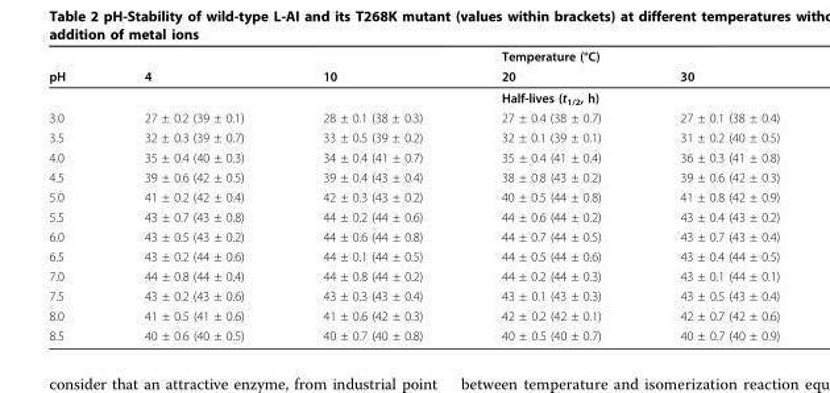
<table><thead><tr><td rowspan="2">pH</td><td rowspan="2">4</td><td rowspan="2">10</td><td rowspan="2">Temperature (°C) 20</td><td rowspan="2">30</td></tr><tr></tr></thead><tbody><tr><td></td><td></td><td></td><td>Half-lives (t<sub>1/2</sub>, h)</td><td></td></tr><tr><td>3.0</td><td>27 ± 0.2 (39 ± 0.1)</td><td>28 ± 0.1 (38 ± 0.3)</td><td>27 ± 0.4 (38 ± 0.7)</td><td>27 ± 0.1 (38 ± 0.4)</td></tr><tr><td>3.5</td><td>32 ± 0.3 (39 ± 0.7)</td><td>33 ± 0.5 (39 ± 0.2)</td><td>32 ± 0.1 (39 ± 0.1)</td><td>31 ± 0.2 (40 ± 0.5)</td></tr><tr><td>4.0</td><td>35 ± 0.4 (40 ± 0.3)</td><td>34 ± 0.4 (41 ± 0.7)</td><td>35 ± 0.4 (41 ± 0.4)</td><td>36 ± 0.3 (41 ± 0.8)</td></tr><tr><td>4.5</td><td>39 ± 0.6 (42 ± 0.5)</td><td>39 ± 0.4 (43 ± 0.4)</td><td>38 ± 0.8 (43 ± 0.2)</td><td>39 ± 0.6 (42 ± 0.3)</td></tr><tr><td>5.0</td><td>41 ± 0.2 (42 ± 0.4)</td><td>42 ± 0.3 (43 ± 0.2)</td><td>40 ± 0.5 (44 ± 0.8)</td><td>41 ± 0.8 (42 ± 0.9)</td></tr><tr><td>5.5</td><td>43 ± 0.7 (43 ± 0.8)</td><td>44 ± 0.2 (44 ± 0.6)</td><td>44 ± 0.6 (44 ± 0.2)</td><td>43 ± 0.4 (43 ± 0.2)</td></tr><tr><td>6.0</td><td>43 ± 0.5 (43 ± 0.2)</td><td>44 ± 0.6 (44 ± 0.8)</td><td>44 ± 0.7 (44 ± 0.5)</td><td>43 ± 0.7 (43 ± 0.4)</td></tr><tr><td>6.5</td><td>43 ± 0.2 (44 ± 0.6)</td><td>44 ± 0.1 (44 ± 0.5)</td><td>44 ± 0.5 (44 ± 0.6)</td><td>43 ± 0.4 (44 ± 0.5)</td></tr><tr><td>7.0</td><td>44 ± 0.8 (44 ± 0.4)</td><td>44 ± 0.8 (44 ± 0.2)</td><td>44 ± 0.2 (44 ± 0.3)</td><td>43 ± 0.1 (44 ± 0.1)</td></tr><tr><td>7.5</td><td>43 ± 0.2 (43 ± 0.6)</td><td>43 ± 0.3 (43 ± 0.4)</td><td>43 ± 0.1 (43 ± 0.3)</td><td>43 ± 0.5 (43 ± 0.4)</td></tr><tr><td>8.0</td><td>41 ± 0.5 (41 ± 0.6)</td><td>41 ± 0.6 (42 ± 0.3)</td><td>42 ± 0.2 (42 ± 0.1)</td><td>42 ± 0.7 (42 ± 0.6)</td></tr><tr><td>8.5</td><td>40 ± 0.6 (40 ± 0.5)</td><td>40 ± 0.7 (40 ± 0.8)</td><td>40 ± 0.5 (40 ± 0.7)</td><td>40 ± 0.7 (40 ± 0.9)</td></tr></tbody></table>